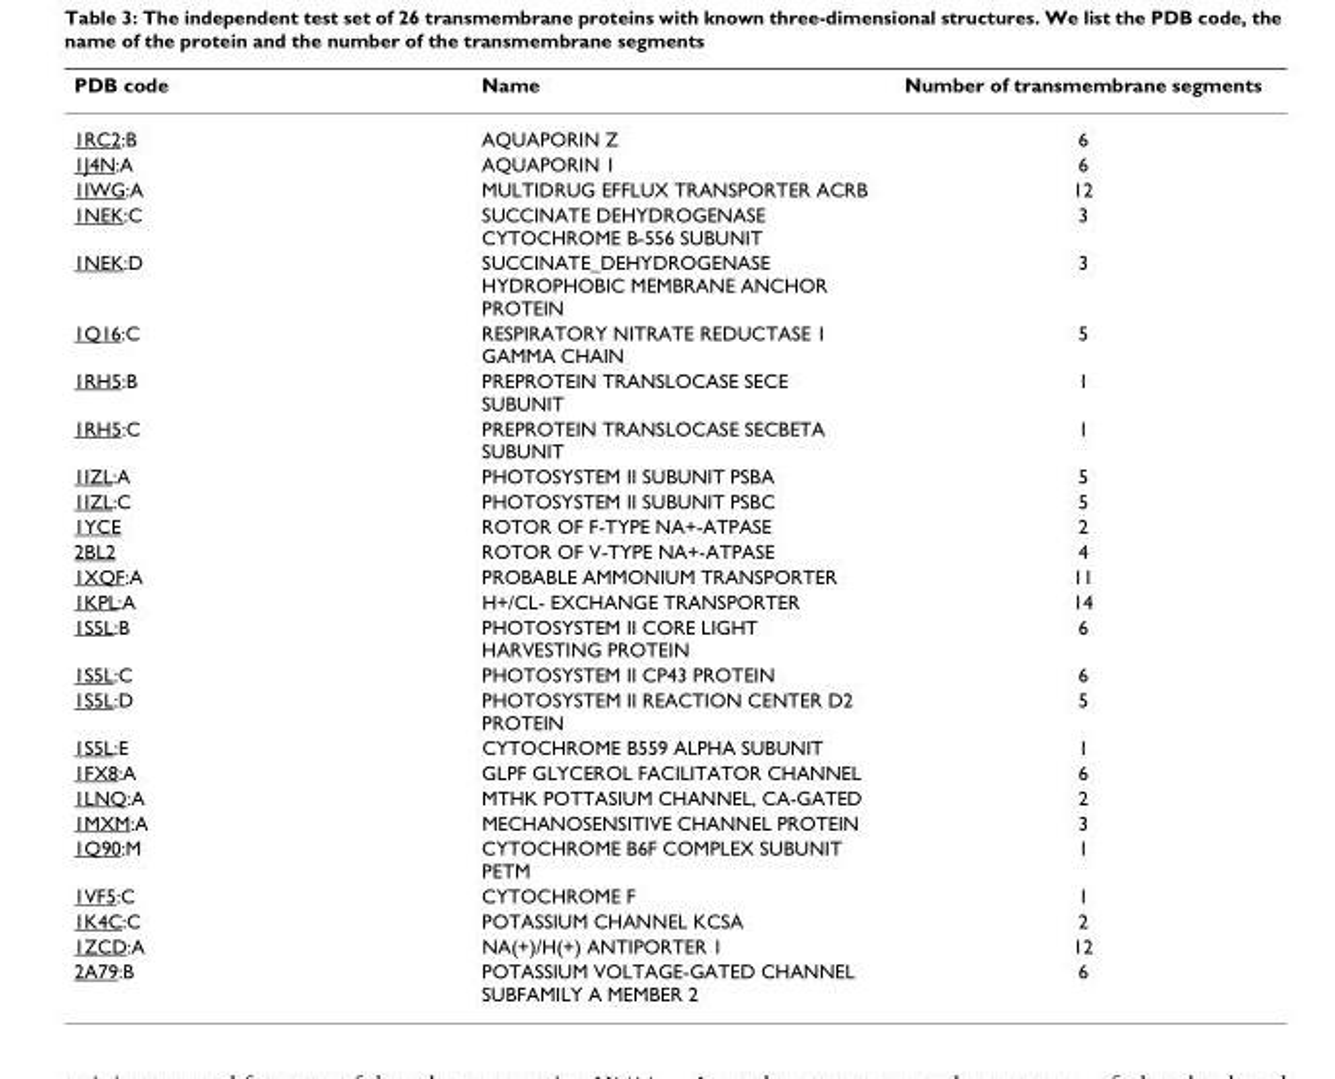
<table><thead><tr><td>PDB code</td><td>Name</td><td>Number of transmembrane segments</td></tr></thead><tbody><tr><td>1RC2:B</td><td>AQUAPORIN Z</td><td>6</td></tr><tr><td>1J4N:A</td><td>AQUAPORIN 1</td><td>6</td></tr><tr><td>1IWG:A</td><td>MULTIDRUG EFFLUX TRANSPORTER ACRB</td><td>12</td></tr><tr><td>1NEK:C</td><td>SUCCINATE DEHYDROGENASE CYTOCHROME B-556 SUBUNIT</td><td>3</td></tr><tr><td>1NEK:D</td><td>SUCCINATE_DEHYDROGENASE HYDROPHOBIC MEMBRANE ANCHOR PROTEIN</td><td>3</td></tr><tr><td>1Q16:C</td><td>RESPIRATORY NITRATE REDUCTASE 1 GAMMA CHAIN</td><td>5</td></tr><tr><td>1RH5:B</td><td>PREPROTEIN TRANSLOCASE SECE SUBUNIT</td><td>1</td></tr><tr><td>1RH5:C</td><td>PREPROTEIN TRANSLOCASE SECBETA SUBUNIT</td><td>1</td></tr><tr><td>1IZL:A</td><td>PHOTOSYSTEM II SUBUNIT PSBA</td><td>5</td></tr><tr><td>1IZL:C</td><td>PHOTOSYSTEM II SUBUNIT PSBC</td><td>5</td></tr><tr><td>1YCE</td><td>ROTOR OF F-TYPE NA+-ATPASE</td><td>2</td></tr><tr><td>2BL2</td><td>ROTOR OF V-TYPE NA+-ATPASE</td><td>4</td></tr><tr><td>1XQF:A</td><td>PROBABLE AMMONIUM TRANSPORTER</td><td>11</td></tr><tr><td>1KPL:A</td><td>H+/CL- EXCHANGE TRANSPORTER</td><td>14</td></tr><tr><td>1S5L:B</td><td>PHOTOSYSTEM II CORE LIGHT HARVESTING PROTEIN</td><td>6</td></tr><tr><td>1S5L:C</td><td>PHOTOSYSTEM II CP43 PROTEIN</td><td>6</td></tr><tr><td>1S5L:D</td><td>PHOTOSYSTEM II REACTION CENTER D2 PROTEIN</td><td>5</td></tr><tr><td>1S5L:E</td><td>CYTOCHROME B559 ALPHA SUBUNIT</td><td>1</td></tr><tr><td>1FX8:A</td><td>GLPF GLYCEROL FACILITATOR CHANNEL</td><td>6</td></tr><tr><td>1LNQ:A</td><td>MTHK POTTASIUM CHANNEL, CA-GATED</td><td>2</td></tr><tr><td>1MXM:A</td><td>MECHANOSENSITIVE CHANNEL PROTEIN</td><td>3</td></tr><tr><td>1Q90:M</td><td>CYTOCHROME B6F COMPLEX SUBUNIT PETM</td><td>1</td></tr><tr><td>1VF5:C</td><td>CYTOCHROME F</td><td>1</td></tr><tr><td>1K4C:C</td><td>POTASSIUM CHANNEL KCSA</td><td>2</td></tr><tr><td>1ZCD:A</td><td>NA(+)/H(+) ANTIPORTER 1</td><td>12</td></tr><tr><td>2A79:B</td><td>POTASSIUM VOLTAGE-GATED CHANNEL SUBFAMILY A MEMBER 2</td><td>6</td></tr></tbody></table>